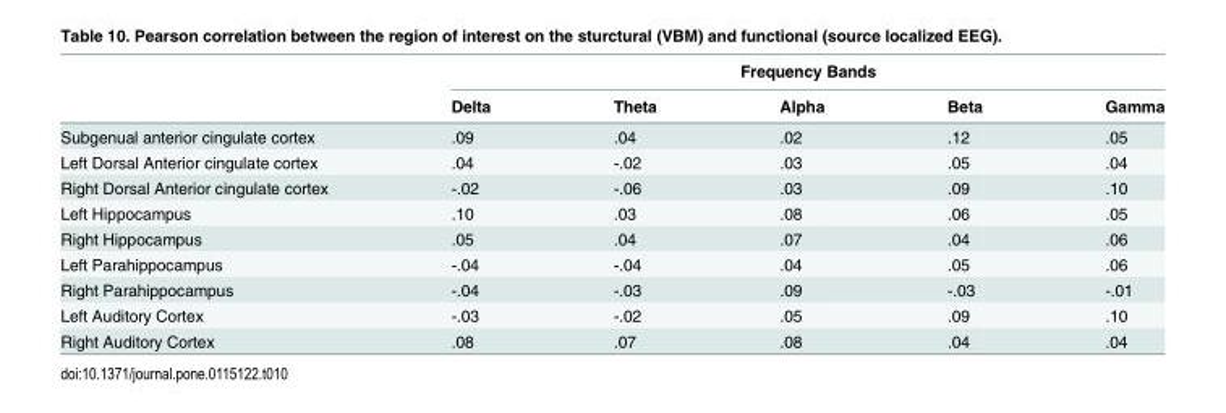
<table><thead><tr><td rowspan="2"></td><td colspan="5">Frequency Bands</td></tr><tr><td>Delta</td><td>Theta</td><td>Alpha</td><td>Beta</td><td>Gamma</td></tr></thead><tbody><tr><td>Subgenual anterior cingulate cortex</td><td>.09</td><td>.04</td><td>.02</td><td>.12</td><td>.05</td></tr><tr><td>Left Dorsal Anterior cingulate cortex</td><td>.04</td><td>-.02</td><td>.03</td><td>.05</td><td>.04</td></tr><tr><td>Right Dorsal Anterior cingulate cortex</td><td>-.02</td><td>-.06</td><td>.03</td><td>.09</td><td>.10</td></tr><tr><td>Left Hippocampus</td><td>.10</td><td>.03</td><td>.08</td><td>.06</td><td>.05</td></tr><tr><td>Right Hippocampus</td><td>.05</td><td>.04</td><td>.07</td><td>.04</td><td>.06</td></tr><tr><td>Left Parahippocampus</td><td>-.04</td><td>-.04</td><td>.04</td><td>.05</td><td>.06</td></tr><tr><td>Right Parahippocampus</td><td>-.04</td><td>-.03</td><td>.09</td><td>-.03</td><td>-.01</td></tr><tr><td>Left Auditory Cortex</td><td>-.03</td><td>-.02</td><td>.05</td><td>.09</td><td>.10</td></tr><tr><td>Right Auditory Cortex</td><td>.08</td><td>.07</td><td>.08</td><td>.04</td><td>.04</td></tr></tbody></table>